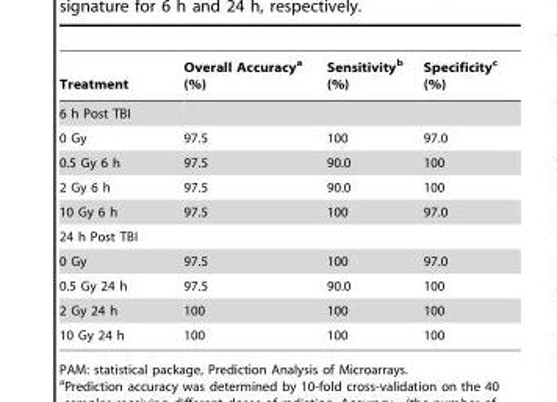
<table><thead><tr><td>Treatment</td><td>Overall Accuracy<sup>a</sup> (%)</td><td>Sensitivity<sup>b</sup> (%)</td><td>Specificity<sup>c</sup> (%)</td></tr></thead><tbody><tr><td colspan="4">6 h Post TBI</td></tr><tr><td>0 Gy</td><td>97.5</td><td>100</td><td>97.0</td></tr><tr><td>0.5 Gy 6 h</td><td>97.5</td><td>90.0</td><td>100</td></tr><tr><td>2 Gy 6 h</td><td>97.5</td><td>90.0</td><td>100</td></tr><tr><td>10 Gy 6 h</td><td>97.5</td><td>100</td><td>97.0</td></tr><tr><td colspan="4">24 h Post TBI</td></tr><tr><td>0 Gy</td><td>97.5</td><td>100</td><td>97.0</td></tr><tr><td>0.5 Gy 24 h</td><td>97.5</td><td>90.0</td><td>100</td></tr><tr><td>2 Gy 24 h</td><td>100</td><td>100</td><td>100</td></tr><tr><td>10 Gy 24 h</td><td>100</td><td>100</td><td>100</td></tr></tbody></table>